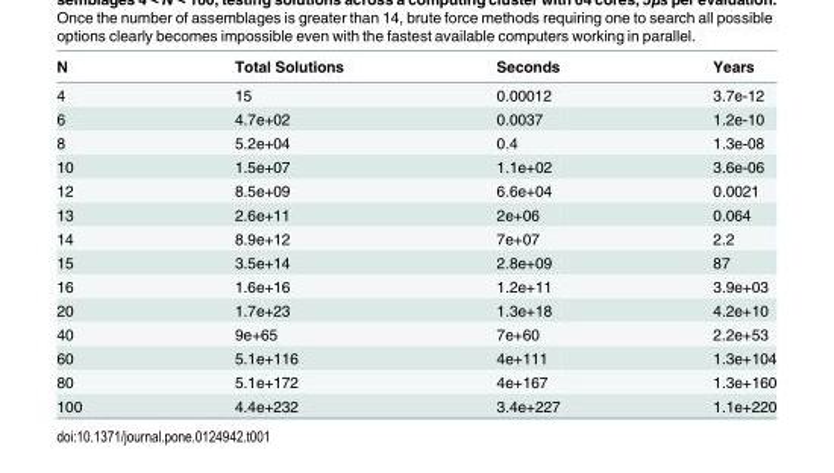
<table><thead><tr><td>N</td><td>Total Solutions</td><td>Seconds</td><td>Years</td></tr></thead><tbody><tr><td>4</td><td>15</td><td>0.00012</td><td>3.7e-12</td></tr><tr><td>6</td><td>4.7e+02</td><td>0.0037</td><td>1.2e-10</td></tr><tr><td>8</td><td>5.2e+04</td><td>0.4</td><td>1.3e-08</td></tr><tr><td>10</td><td>1.5e+07</td><td>1.1e+02</td><td>3.6e-06</td></tr><tr><td>12</td><td>8.5e+09</td><td>6.6e+04</td><td>0.0021</td></tr><tr><td>13</td><td>2.6e+11</td><td>2e+06</td><td>0.064</td></tr><tr><td>14</td><td>8.9e+12</td><td>7e+07</td><td>2.2</td></tr><tr><td>15</td><td>3.5e+14</td><td>2.8e+09</td><td>87</td></tr><tr><td>16</td><td>1.6e+16</td><td>1.2e+11</td><td>3.9e+03</td></tr><tr><td>20</td><td>1.7e+23</td><td>1.3e+18</td><td>4.2e+10</td></tr><tr><td>40</td><td>9e+65</td><td>7e+60</td><td>2.2e+53</td></tr><tr><td>60</td><td>5.1e+116</td><td>4e+111</td><td>1.3e+104</td></tr><tr><td>80</td><td>5.1e+172</td><td>4e+167</td><td>1.3e+160</td></tr><tr><td>100</td><td>4.4e+232</td><td>3.4e+227</td><td>1.1e+220</td></tr></tbody></table>